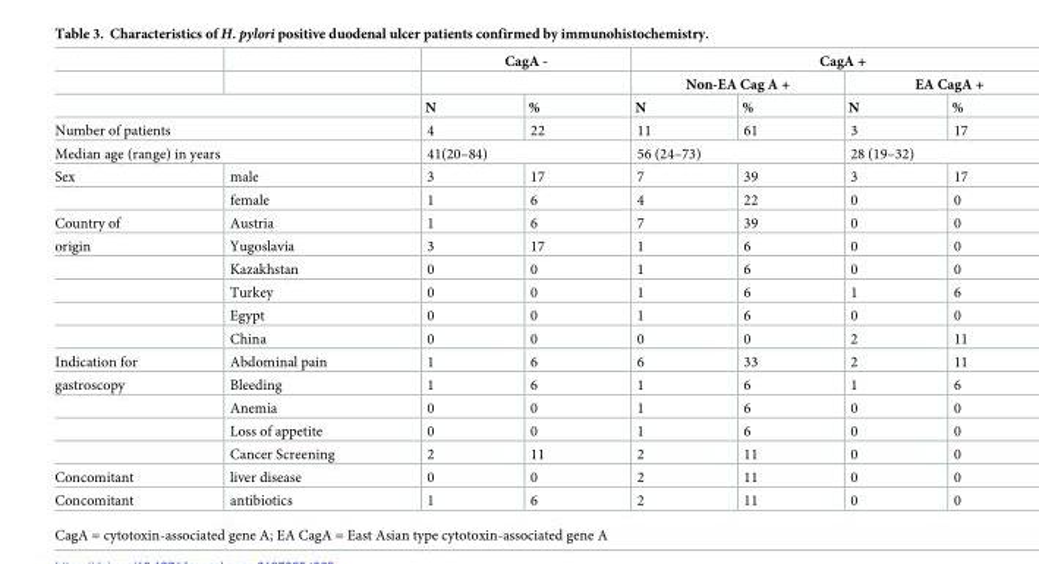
<table><thead><tr><td rowspan="3"></td><td rowspan="3"></td><td colspan="2">CagA -</td><td colspan="4">CagA +</td></tr><tr><td rowspan="2">N</td><td rowspan="2">%</td><td colspan="2">Non-EA Cag A +</td><td colspan="2">EA CagA +</td></tr><tr><td>N</td><td>%</td><td>N</td><td>%</td></tr></thead><tbody><tr><td colspan="2">Number of patients</td><td>4</td><td>22</td><td>11</td><td>61</td><td>3</td><td>17</td></tr><tr><td colspan="2">Median age (range) in years</td><td colspan="2">41(20–84)</td><td colspan="2">56 (24–73)</td><td colspan="2">28 (19–32)</td></tr><tr><td rowspan="2">Sex</td><td>male</td><td>3</td><td>17</td><td>7</td><td>39</td><td>3</td><td>17</td></tr><tr><td>female</td><td>1</td><td>6</td><td>4</td><td>22</td><td>0</td><td>0</td></tr><tr><td>Country of</td><td>Austria</td><td>1</td><td>6</td><td>7</td><td>39</td><td>0</td><td>0</td></tr><tr><td rowspan="5">origin</td><td>Yugoslavia</td><td>3</td><td>17</td><td>1</td><td>6</td><td>0</td><td>0</td></tr><tr><td>Kazakhstan</td><td>0</td><td>0</td><td>1</td><td>6</td><td>0</td><td>0</td></tr><tr><td>Turkey</td><td>0</td><td>0</td><td>1</td><td>6</td><td>1</td><td>6</td></tr><tr><td>Egypt</td><td>0</td><td>0</td><td>1</td><td>6</td><td>0</td><td>0</td></tr><tr><td>China</td><td>0</td><td>0</td><td>0</td><td>0</td><td>2</td><td>11</td></tr><tr><td>Indication for</td><td>Abdominal pain</td><td>1</td><td>6</td><td>6</td><td>33</td><td>2</td><td>11</td></tr><tr><td rowspan="4">gastroscopy</td><td>Bleeding</td><td>1</td><td>6</td><td>1</td><td>6</td><td>1</td><td>6</td></tr><tr><td>Anemia</td><td>0</td><td>0</td><td>1</td><td>6</td><td>0</td><td>0</td></tr><tr><td>Loss of appetite</td><td>0</td><td>0</td><td>1</td><td>6</td><td>0</td><td>0</td></tr><tr><td>Cancer Screening</td><td>2</td><td>11</td><td>2</td><td>11</td><td>0</td><td>0</td></tr><tr><td>Concomitant</td><td>liver disease</td><td>0</td><td>0</td><td>2</td><td>11</td><td>0</td><td>0</td></tr><tr><td>Concomitant</td><td>antibiotics</td><td>1</td><td>6</td><td>2</td><td>11</td><td>0</td><td>0</td></tr></tbody></table>